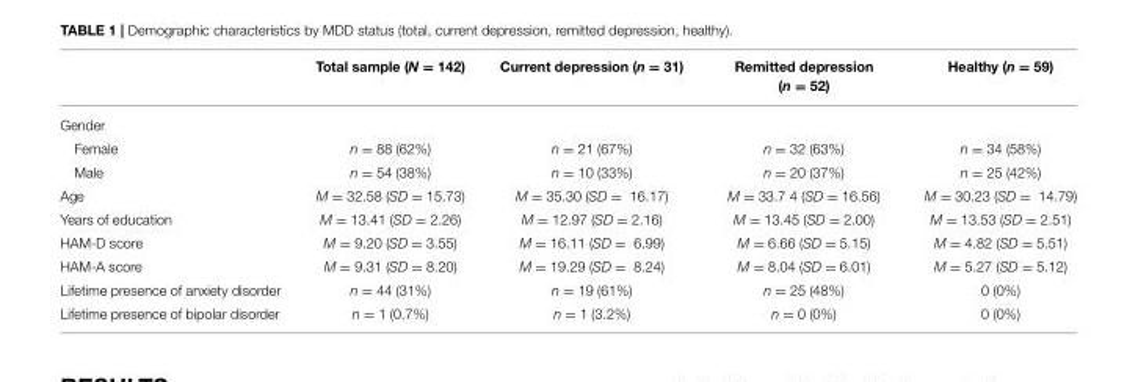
<table><thead><tr><td></td><td>Total sample (N = 142)</td><td>Current depression (n = 31)</td><td>Remitted depression (n = 52)</td><td>Healthy (n = 59)</td></tr></thead><tbody><tr><td colspan="5">Gender</td></tr><tr><td>Female</td><td>n = 88 (62%)</td><td>n = 21 (67%)</td><td>n = 32 (63%)</td><td>n = 34 (58%)</td></tr><tr><td>Male</td><td>n = 54 (38%)</td><td>n = 10 (33%)</td><td>n = 20 (37%)</td><td>n = 25 (42%)</td></tr><tr><td>Age</td><td>M = 32.58 (SD = 15.73)</td><td>M = 35.30 (SD = 16.17)</td><td>M = 33.7 4 (SD = 16.56)</td><td>M = 30.23 (SD = 14.79)</td></tr><tr><td>Years of education</td><td>M = 13.41 (SD = 2.26)</td><td>M = 12.97 (SD = 2.16)</td><td>M = 13.45 (SD = 2.00)</td><td>M = 13.53 (SD = 2.51)</td></tr><tr><td>HAM-D score</td><td>M = 9.20 (SD = 3.55)</td><td>M = 16.11 (SD = 6.99)</td><td>M = 6.66 (SD = 5.15)</td><td>M = 4.82 (SD = 5.51)</td></tr><tr><td>HAM-A score</td><td>M = 9.31 (SD = 8.20)</td><td>M = 19.29 (SD = 8.24)</td><td>M = 8.04 (SD = 6.01)</td><td>M = 5.27 (SD = 5.12)</td></tr><tr><td>Lifetime presence of anxiety disorder</td><td>n = 44 (31%)</td><td>n = 19 (61%)</td><td>n = 25 (48%)</td><td>0 (0%)</td></tr><tr><td>Lifetime presence of bipolar disorder</td><td>n = 1 (0.7%)</td><td>n = 1 (3.2%)</td><td>n = 0 (0%)</td><td>0 (0%)</td></tr></tbody></table>